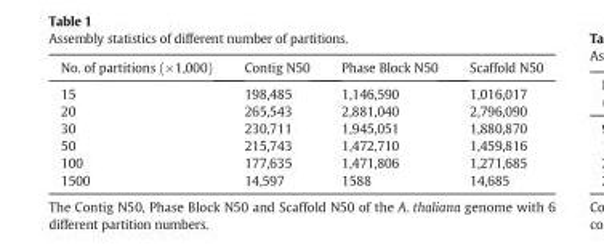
<table><thead><tr><td>No. of partitions (×1,000)</td><td>Contig N50</td><td>Phase Block N50</td><td>Scaffold N50</td></tr></thead><tbody><tr><td>15</td><td>198,485</td><td>1,146,590</td><td>1,016,017</td></tr><tr><td>20</td><td>265,543</td><td>2,881,040</td><td>2,796,090</td></tr><tr><td>30</td><td>230,711</td><td>1,945,051</td><td>1,880,870</td></tr><tr><td>50</td><td>215,743</td><td>1,472,710</td><td>1,459,816</td></tr><tr><td>100</td><td>177,635</td><td>1,471,806</td><td>1,271,685</td></tr><tr><td>1500</td><td>14,597</td><td>1588</td><td>14,685</td></tr></tbody></table>